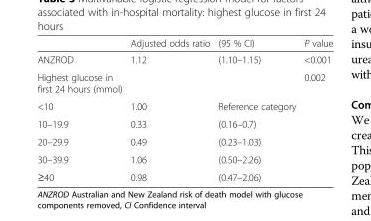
<table><thead><tr><td></td><td>Adjusted odds ratio</td><td>(95 % CI)</td><td>P value</td></tr></thead><tbody><tr><td>ANZROD</td><td>1.12</td><td>(1.10–1.15)</td><td>&lt;0.001</td></tr><tr><td>Highest glucose in first 24 hours (mmol)</td><td></td><td></td><td>0.002</td></tr><tr><td>&lt;10</td><td>1.00</td><td>Reference category</td><td></td></tr><tr><td>10–19.9</td><td>0.33</td><td>(0.16–0.7)</td><td></td></tr><tr><td>20–29.9</td><td>0.49</td><td>(0.23–1.03)</td><td></td></tr><tr><td>30–39.9</td><td>1.06</td><td>(0.50–2.26)</td><td></td></tr><tr><td>≥40</td><td>0.98</td><td>(0.47–2.06)</td><td></td></tr></tbody></table>